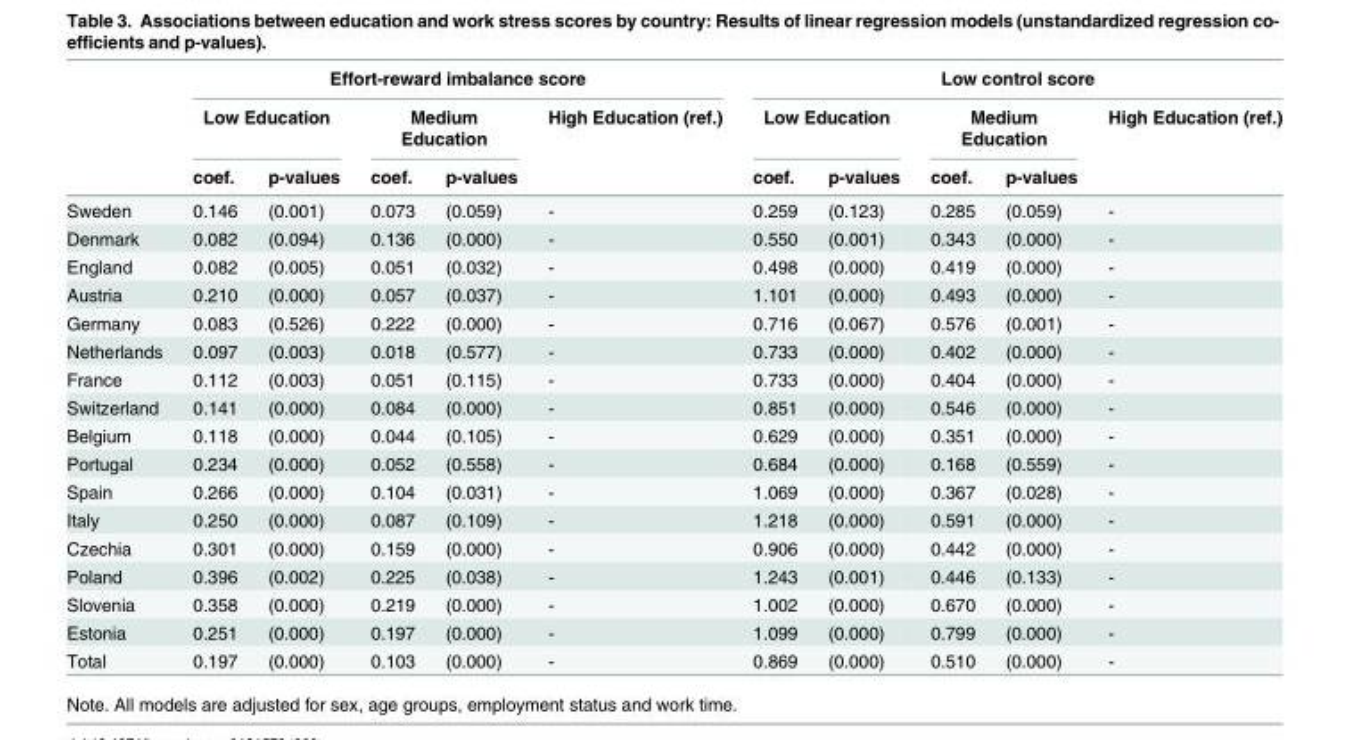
<table><thead><tr><td rowspan="3"></td><td colspan="5">Effort-reward imbalance score</td><td colspan="5">Low control score</td></tr><tr><td colspan="2">Low Education</td><td colspan="2">Medium Education</td><td rowspan="2">High Education (ref.)</td><td colspan="2">Low Education</td><td colspan="2">Medium Education</td><td rowspan="2">High Education (ref.)</td></tr><tr><td>coef.</td><td>p-values</td><td>coef.</td><td>p-values</td><td>coef.</td><td>p-values</td><td>coef.</td><td>p-values</td></tr></thead><tbody><tr><td>Sweden</td><td>0.146</td><td>(0.001)</td><td>0.073</td><td>(0.059)</td><td>-</td><td>0.259</td><td>(0.123)</td><td>0.285</td><td>(0.059)</td><td>-</td></tr><tr><td>Denmark</td><td>0.082</td><td>(0.094)</td><td>0.136</td><td>(0.000)</td><td>-</td><td>0.550</td><td>(0.001)</td><td>0.343</td><td>(0.000)</td><td>-</td></tr><tr><td>England</td><td>0.082</td><td>(0.005)</td><td>0.051</td><td>(0.032)</td><td>-</td><td>0.498</td><td>(0.000)</td><td>0.419</td><td>(0.000)</td><td>-</td></tr><tr><td>Austria</td><td>0.210</td><td>(0.000)</td><td>0.057</td><td>(0.037)</td><td>-</td><td>1.101</td><td>(0.000)</td><td>0.493</td><td>(0.000)</td><td>-</td></tr><tr><td>Germany</td><td>0.083</td><td>(0.526)</td><td>0.222</td><td>(0.000)</td><td>-</td><td>0.716</td><td>(0.067)</td><td>0.576</td><td>(0.001)</td><td>-</td></tr><tr><td>Netherlands</td><td>0.097</td><td>(0.003)</td><td>0.018</td><td>(0.577)</td><td>-</td><td>0.733</td><td>(0.000)</td><td>0.402</td><td>(0.000)</td><td>-</td></tr><tr><td>France</td><td>0.112</td><td>(0.003)</td><td>0.051</td><td>(0.115)</td><td>-</td><td>0.733</td><td>(0.000)</td><td>0.404</td><td>(0.000)</td><td>-</td></tr><tr><td>Switzerland</td><td>0.141</td><td>(0.000)</td><td>0.084</td><td>(0.000)</td><td>-</td><td>0.851</td><td>(0.000)</td><td>0.546</td><td>(0.000)</td><td>-</td></tr><tr><td>Belgium</td><td>0.118</td><td>(0.000)</td><td>0.044</td><td>(0.105)</td><td>-</td><td>0.629</td><td>(0.000)</td><td>0.351</td><td>(0.000)</td><td>-</td></tr><tr><td>Portugal</td><td>0.234</td><td>(0.000)</td><td>0.052</td><td>(0.558)</td><td>-</td><td>0.684</td><td>(0.000)</td><td>0.168</td><td>(0.559)</td><td>-</td></tr><tr><td>Spain</td><td>0.266</td><td>(0.000)</td><td>0.104</td><td>(0.031)</td><td>-</td><td>1.069</td><td>(0.000)</td><td>0.367</td><td>(0.028)</td><td>-</td></tr><tr><td>Italy</td><td>0.250</td><td>(0.000)</td><td>0.087</td><td>(0.109)</td><td>-</td><td>1.218</td><td>(0.000)</td><td>0.591</td><td>(0.000)</td><td>-</td></tr><tr><td>Czechia</td><td>0.301</td><td>(0.000)</td><td>0.159</td><td>(0.000)</td><td>-</td><td>0.906</td><td>(0.000)</td><td>0.442</td><td>(0.000)</td><td>-</td></tr><tr><td>Poland</td><td>0.396</td><td>(0.002)</td><td>0.225</td><td>(0.038)</td><td>-</td><td>1.243</td><td>(0.001)</td><td>0.446</td><td>(0.133)</td><td>-</td></tr><tr><td>Slovenia</td><td>0.358</td><td>(0.000)</td><td>0.219</td><td>(0.000)</td><td>-</td><td>1.002</td><td>(0.000)</td><td>0.670</td><td>(0.000)</td><td>-</td></tr><tr><td>Estonia</td><td>0.251</td><td>(0.000)</td><td>0.197</td><td>(0.000)</td><td>-</td><td>1.099</td><td>(0.000)</td><td>0.799</td><td>(0.000)</td><td>-</td></tr><tr><td>Total</td><td>0.197</td><td>(0.000)</td><td>0.103</td><td>(0.000)</td><td>-</td><td>0.869</td><td>(0.000)</td><td>0.510</td><td>(0.000)</td><td>-</td></tr></tbody></table>